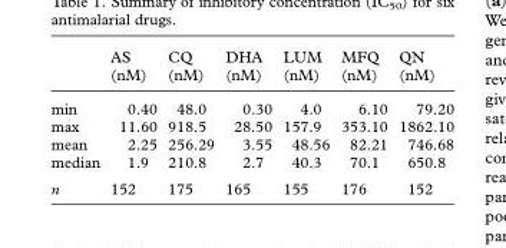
<table><thead><tr><td></td><td>AS (nM)</td><td>CQ (nM)</td><td>DHA (nM)</td><td>LUM (nM)</td><td>MFQ (nM)</td><td>QN (nM)</td></tr></thead><tbody><tr><td>min</td><td>0.40</td><td>48.0</td><td>0.30</td><td>4.0</td><td>6.10</td><td>79.20</td></tr><tr><td>max</td><td>11.60</td><td>918.5</td><td>28.50</td><td>157.9</td><td>353.10</td><td>1862.10</td></tr><tr><td>mean</td><td>2.25</td><td>256.29</td><td>3.55</td><td>48.56</td><td>82.21</td><td>746.68</td></tr><tr><td>median</td><td>1.9</td><td>210.8</td><td>2.7</td><td>40.3</td><td>70.1</td><td>650.8</td></tr><tr><td>n</td><td>152</td><td>175</td><td>165</td><td>155</td><td>176</td><td>152</td></tr></tbody></table>